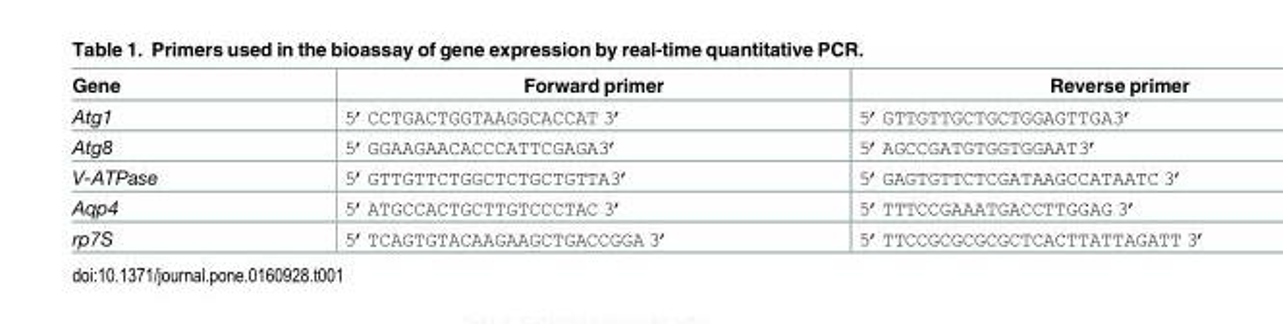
<table><thead><tr><td>Gene</td><td>Forward primer</td><td>Reverse primer</td></tr></thead><tbody><tr><td>Atg1</td><td>5’CCTGACTGGTAAGGCACCAT 3’</td><td>5’GTTGTTGCTGCTGGAGTTGA3’</td></tr><tr><td>Atg8</td><td>5’GGAAGAACACCCATTCGAGA3’</td><td>5’AGCCGATGTGGTGGAAT3’</td></tr><tr><td>V-ATPase</td><td>5’GTTGTTCTGGCTCTGCTGTTA3’</td><td>5’GAGTGTTCTCGATAAGCCATAATC 3’</td></tr><tr><td>Aqp4</td><td>5’ATGCCACTGCTTGTCCCTAC 3’</td><td>5’TTTCCGAAATGACCTTGGAG 3’</td></tr><tr><td>rp7S</td><td>5’TCAGTGTACAAGAAGCTGACCGGA 3’</td><td>5’TTCCGCGCGCGCTCACTTATTAGATT 3’</td></tr></tbody></table>